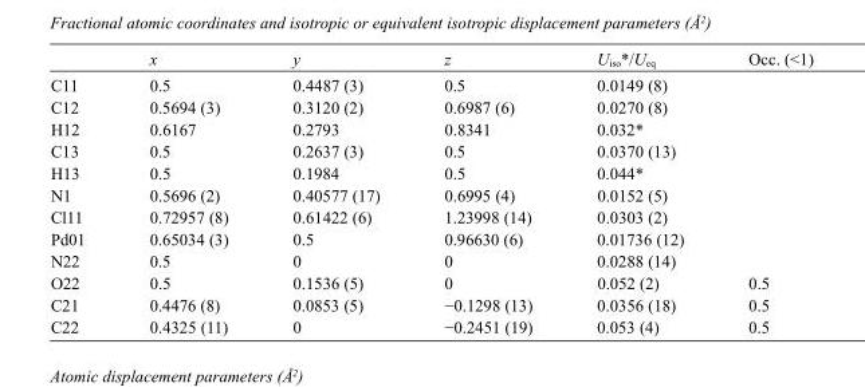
<table><thead><tr><td></td><td>x</td><td>y</td><td>z</td><td>U<sub>iso</sub>*/U<sub>eq</sub></td><td>Occ. (&lt;1)</td></tr></thead><tbody><tr><td>C11</td><td>0.5</td><td>0.4487 (3)</td><td>0.5</td><td>0.0149 (8)</td><td></td></tr><tr><td>C12</td><td>0.5694 (3)</td><td>0.3120 (2)</td><td>0.6987 (6)</td><td>0.0270 (8)</td><td></td></tr><tr><td>H12</td><td>0.6167</td><td>0.2793</td><td>0.8341</td><td>0.032*</td><td></td></tr><tr><td>C13</td><td>0.5</td><td>0.2637 (3)</td><td>0.5</td><td>0.0370 (13)</td><td></td></tr><tr><td>H13</td><td>0.5</td><td>0.1984</td><td>0.5</td><td>0.044*</td><td></td></tr><tr><td>N1</td><td>0.5696 (2)</td><td>0.40577 (17)</td><td>0.6995 (4)</td><td>0.0152 (5)</td><td></td></tr><tr><td>Cl11</td><td>0.72957 (8)</td><td>0.61422 (6)</td><td>1.23998 (14)</td><td>0.0303 (2)</td><td></td></tr><tr><td>Pd01</td><td>0.65034 (3)</td><td>0.5</td><td>0.96630 (6)</td><td>0.01736 (12)</td><td></td></tr><tr><td>N22</td><td>0.5</td><td>0</td><td>0</td><td>0.0288 (14)</td><td></td></tr><tr><td>O22</td><td>0.5</td><td>0.1536 (5)</td><td>0</td><td>0.052 (2)</td><td>0.5</td></tr><tr><td>C21</td><td>0.4476 (8)</td><td>0.0853 (5)</td><td>−0.1298 (13)</td><td>0.0356 (18)</td><td>0.5</td></tr><tr><td>C22</td><td>0.4325 (11)</td><td>0</td><td>−0.2451 (19)</td><td>0.053 (4)</td><td>0.5</td></tr></tbody></table>